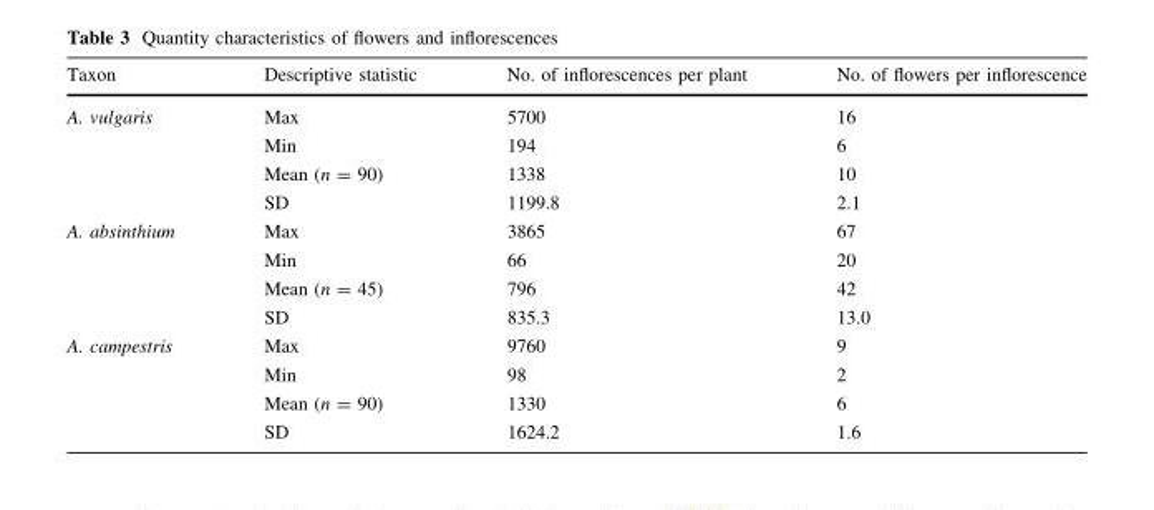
<table><thead><tr><td>Taxon</td><td>Descriptive statistic</td><td>No. of inflorescences per plant</td><td>No. of flowers per inflorescence</td></tr></thead><tbody><tr><td rowspan="4">A. vulgaris</td><td>Max</td><td>5700</td><td>16</td></tr><tr><td>Min</td><td>194</td><td>6</td></tr><tr><td>Mean (n = 90)</td><td>1338</td><td>10</td></tr><tr><td>SD</td><td>1199.8</td><td>2.1</td></tr><tr><td rowspan="4">A. absinthium</td><td>Max</td><td>3865</td><td>67</td></tr><tr><td>Min</td><td>66</td><td>20</td></tr><tr><td>Mean (n = 45)</td><td>796</td><td>42</td></tr><tr><td>SD</td><td>835.3</td><td>13.0</td></tr><tr><td rowspan="4">A. campestris</td><td>Max</td><td>9760</td><td>9</td></tr><tr><td>Min</td><td>98</td><td>2</td></tr><tr><td>Mean (n = 90)</td><td>1330</td><td>6</td></tr><tr><td>SD</td><td>1624.2</td><td>1.6</td></tr></tbody></table>